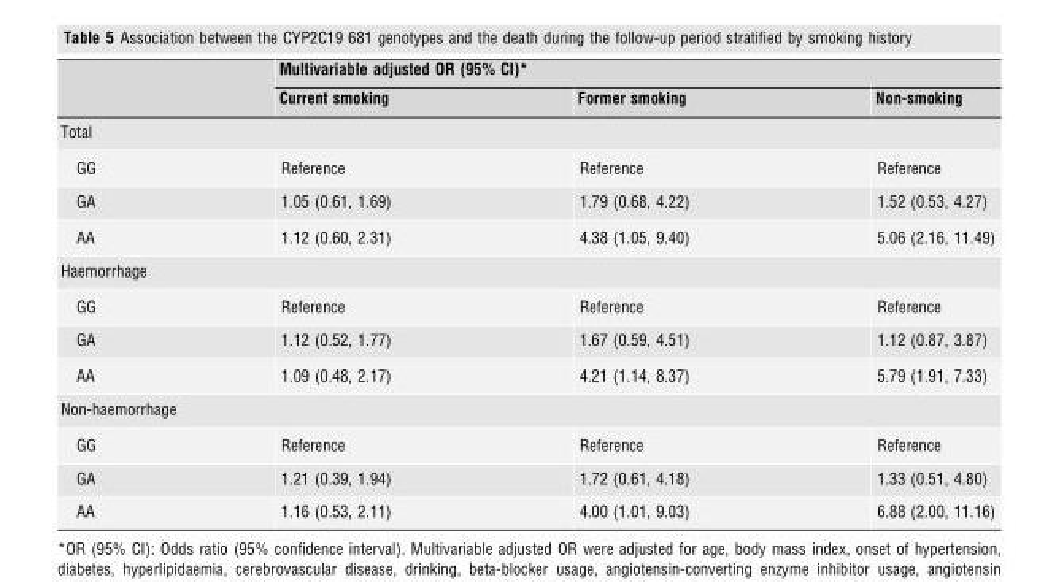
<table><thead><tr><td rowspan="2"></td><td colspan="3">Multivariable adjusted OR (95% CI)*</td></tr><tr><td>Current smoking</td><td>Former smoking</td><td>Non-smoking</td></tr></thead><tbody><tr><td colspan="4">Total</td></tr><tr><td>GG</td><td>Reference</td><td>Reference</td><td>Reference</td></tr><tr><td>GA</td><td>1.05 (0.61, 1.69)</td><td>1.79 (0.68, 4.22)</td><td>1.52 (0.53, 4.27)</td></tr><tr><td>AA</td><td>1.12 (0.60, 2.31)</td><td>4.38 (1.05, 9.40)</td><td>5.06 (2.16, 11.49)</td></tr><tr><td colspan="4">Haemorrhage</td></tr><tr><td>GG</td><td>Reference</td><td>Reference</td><td>Reference</td></tr><tr><td>GA</td><td>1.12 (0.52, 1.77)</td><td>1.67 (0.59, 4.51)</td><td>1.12 (0.87, 3.87)</td></tr><tr><td>AA</td><td>1.09 (0.48, 2.17)</td><td>4.21 (1.14, 8.37)</td><td>5.79 (1.91, 7.33)</td></tr><tr><td colspan="4">Non-haemorrhage</td></tr><tr><td>GG</td><td>Reference</td><td>Reference</td><td>Reference</td></tr><tr><td>GA</td><td>1.21 (0.39, 1.94)</td><td>1.72 (0.61, 4.18)</td><td>1.33 (0.51, 4.80)</td></tr><tr><td>AA</td><td>1.16 (0.53, 2.11)</td><td>4.00 (1.01, 9.03)</td><td>6.88 (2.00, 11.16)</td></tr></tbody></table>